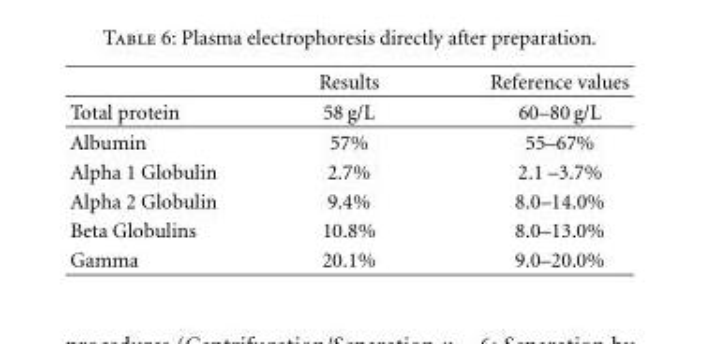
<table><thead><tr><td></td><td>Results</td><td>Reference values</td></tr></thead><tbody><tr><td>Total protein</td><td>58 g/L</td><td>60–80 g/L</td></tr><tr><td>Albumin</td><td>57%</td><td>55–67%</td></tr><tr><td>Alpha 1 Globulin</td><td>2.7%</td><td>2.1 –3.7%</td></tr><tr><td>Alpha 2 Globulin</td><td>9.4%</td><td>8.0–14.0%</td></tr><tr><td>Beta Globulins</td><td>10.8%</td><td>8.0–13.0%</td></tr><tr><td>Gamma</td><td>20.1%</td><td>9.0–20.0%</td></tr></tbody></table>